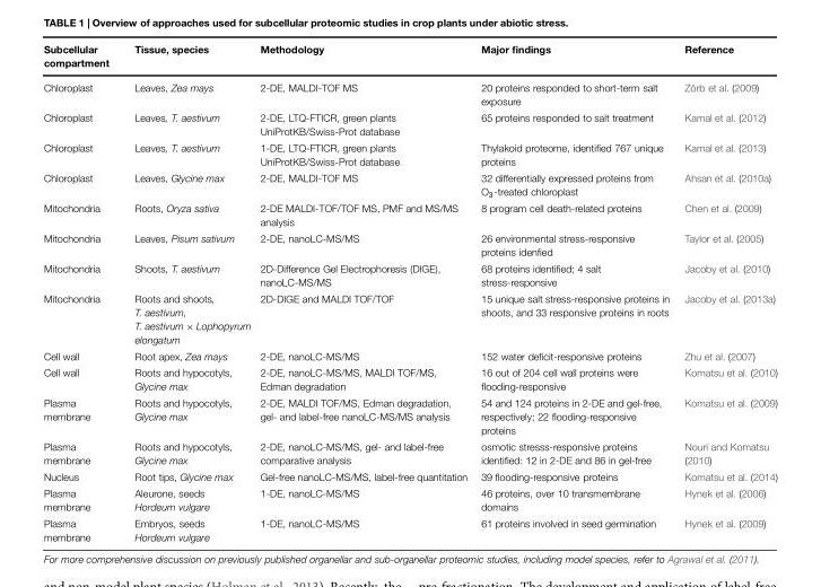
<table><thead><tr><td>Subcellular compartment</td><td>Tissue, species</td><td>Methodology</td><td>Major findings</td><td>Reference</td></tr></thead><tbody><tr><td>Chloroplast</td><td>Leaves, Zea mays</td><td>2-DE, MALDI-TOF MS</td><td>20 proteins responded to short-term salt exposure</td><td>Zörb et al. (2009)</td></tr><tr><td>Chloroplast</td><td>Leaves, T. aestivum</td><td>2-DE, LTQ-FTICR, green plants UniProtKB/Swiss-Prot database</td><td>65 proteins responded to salt treatment</td><td>Kamal et al. (2012)</td></tr><tr><td>Chloroplast</td><td>Leaves, T. aestivum</td><td>1-DE, LTQ-FTICR, green plants UniProtKB/Swiss-Prot database</td><td>Thylakoid proteome, identified 767 unique proteins</td><td>Kamal et al. (2013)</td></tr><tr><td>Chloroplast</td><td>Leaves, Glycine max</td><td>2-DE, MALDI-TOF MS</td><td>32 differentially expressed proteins from O<sub>3</sub>-treated chloroplast</td><td>Ahsan et al. (2010a)</td></tr><tr><td>Mitochondria</td><td>Roots, Oryza sativa</td><td>2-DE MALDI-TOF/TOF MS, PMF and MS/MS analysis</td><td>8 program cell death-related proteins</td><td>Chen et al. (2009)</td></tr><tr><td>Mitochondria</td><td>Leaves, Pisum sativum</td><td>2-DE, nanoLC-MS/MS</td><td>26 environmental stress-responsive proteins idenfied</td><td>Taylor et al. (2005)</td></tr><tr><td>Mitochondria</td><td>Shoots, T. aestivum</td><td>2D-Difference Gel Electrophoresis (DIGE), nanoLC-MS/MS</td><td>68 proteins identified; 4 salt stress-responsive</td><td>Jacoby et al. (2010)</td></tr><tr><td>Mitochondria</td><td>Roots and shoots, T. aestivum, T. aestivum × Lophopyrum elongatum</td><td>2D-DIGE and MALDI TOF/TOF</td><td>15 unique salt stress-responsive proteins in shoots, and 33 responsive proteins in roots</td><td>Jacoby et al. (2013a)</td></tr><tr><td>Cell wall</td><td>Root apex, Zea mays</td><td>2-DE, nanoLC-MS/MS</td><td>152 water deficit-responsive proteins</td><td>Zhu et al. (2007)</td></tr><tr><td>Cell wall</td><td>Roots and hypocotyls, Glycine max</td><td>2-DE, nanoLC-MS/MS, MALDI TOF/MS, Edman degradation</td><td>16 out of 204 cell wall proteins were flooding-responsive</td><td>Komatsu et al. (2010)</td></tr><tr><td>Plasma membrane</td><td>Roots and hypocotyls, Glycine max</td><td>2-DE, MALDI TOF/MS, Edman degradation, gel- and label-free nanoLC-MS/MS analysis</td><td>54 and 124 proteins in 2-DE and gel-free, respectively; 22 flooding-responsive proteins</td><td>Komatsu et al. (2009)</td></tr><tr><td>Plasma membrane</td><td>Roots and hypocotyls, Glycine max</td><td>2-DE, nanoLC-MS/MS, gel- and label-free comparative analysis</td><td>osmotic stresss-responsive proteins identified: 12 in 2-DE and 86 in gel-free</td><td>Nouri and Komatsu (2010)</td></tr><tr><td>Nucleus</td><td>Root tips, Glycine max</td><td>Gel-free nanoLC-MS/MS, label-free quantitation</td><td>39 flooding-responsive proteins</td><td>Komatsu et al. (2014)</td></tr><tr><td>Plasma membrane</td><td>Aleurone, seeds Hordeum vulgare</td><td>1-DE, nanoLC-MS/MS</td><td>46 proteins, over 10 transmembrane domains</td><td>Hynek et al. (2006)</td></tr><tr><td>Plasma membrane</td><td>Embryos, seeds Hordeum vulgare</td><td>1-DE, nanoLC-MS/MS</td><td>61 proteins involved in seed germination</td><td>Hynek et al. (2009)</td></tr></tbody></table>